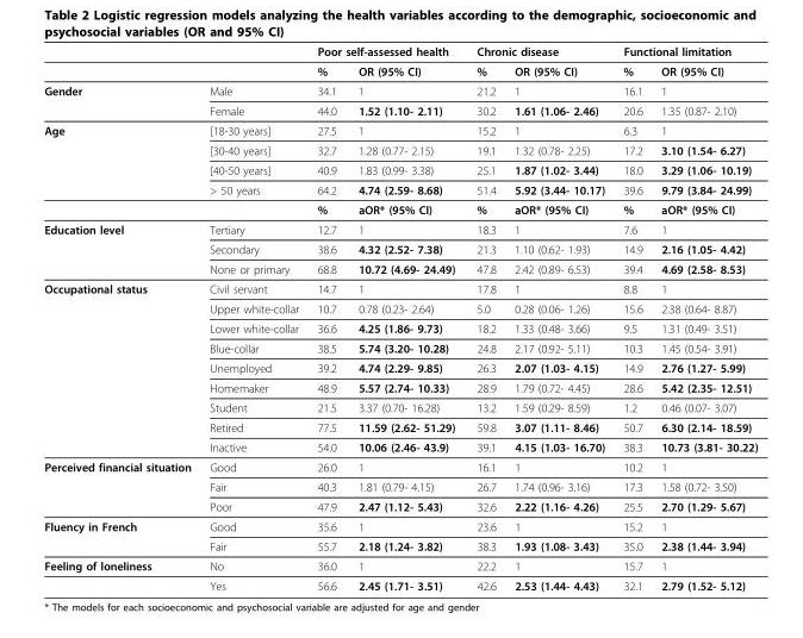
<table><thead><tr><td rowspan="2"></td><td rowspan="2"></td><td colspan="2">Poor self-assessed health</td><td colspan="2">Chronic disease</td><td colspan="2">Functional limitation</td></tr><tr><td>%</td><td>OR (95% CI)</td><td>%</td><td>OR (95% CI)</td><td>%</td><td>OR (95% CI)</td></tr></thead><tbody><tr><td rowspan="2">Gender</td><td>Male</td><td>34.1</td><td>1</td><td>21.2</td><td>1</td><td>16.1</td><td>1</td></tr><tr><td>Female</td><td>44.0</td><td>1.52 (1.10- 2.11)</td><td>30.2</td><td>1.61 (1.06- 2.46)</td><td>20.6</td><td>1.35 (0.87- 2.10)</td></tr><tr><td rowspan="5">Age</td><td>[18-30 years]</td><td>27.5</td><td>1</td><td>15.2</td><td>1</td><td>6.3</td><td>1</td></tr><tr><td>[30-40 years]</td><td>32.7</td><td>1.28 (0.77- 2.15)</td><td>19.1</td><td>1.32 (0.78- 2.25)</td><td>17.2</td><td>3.10 (1.54- 6.27)</td></tr><tr><td>[40-50 years]</td><td>40.9</td><td>1.83 (0.99- 3.38)</td><td>25.1</td><td>1.87 (1.02- 3.44)</td><td>18.0</td><td>3.29 (1.06- 10.19)</td></tr><tr><td>&gt; 50 years</td><td>64.2</td><td>4.74 (2.59- 8.68)</td><td>51.4</td><td>5.92 (3.44- 10.17)</td><td>39.6</td><td>9.79 (3.84- 24.99)</td></tr><tr><td></td><td>%</td><td>aOR* (95% CI)</td><td>%</td><td>aOR* (95% CI)</td><td>%</td><td>aOR* (95% CI)</td></tr><tr><td rowspan="3">Education level</td><td>Tertiary</td><td>12.7</td><td>1</td><td>18.3</td><td>1</td><td>7.6</td><td>1</td></tr><tr><td>Secondary</td><td>38.6</td><td>4.32 (2.52- 7.38)</td><td>21.3</td><td>1.10 (0.62- 1.93)</td><td>14.9</td><td>2.16 (1.05- 4.42)</td></tr><tr><td>None or primary</td><td>68.8</td><td>10.72 (4.69- 24.49)</td><td>47.8</td><td>2.42 (0.89- 6.53)</td><td>39.4</td><td>4.69 (2.58- 8.53)</td></tr><tr><td rowspan="9">Occupational status</td><td>Civil servant</td><td>14.7</td><td>1</td><td>17.8</td><td>1</td><td>8.8</td><td>1</td></tr><tr><td>Upper white-collar</td><td>10.7</td><td>0.78 (0.23- 2.64)</td><td>5.0</td><td>0.28 (0.06- 1.26)</td><td>15.6</td><td>2.38 (0.64- 8.87)</td></tr><tr><td>Lower white-collar</td><td>36.6</td><td>4.25 (1.86- 9.73)</td><td>18.2</td><td>1.33 (0.48- 3.66)</td><td>9.5</td><td>1.31 (0.49- 3.51)</td></tr><tr><td>Blue-collar</td><td>38.5</td><td>5.74 (3.20- 10.28)</td><td>24.8</td><td>2.17 (0.92- 5.11)</td><td>10.3</td><td>1.45 (0.54- 3.91)</td></tr><tr><td>Unemployed</td><td>39.2</td><td>4.74 (2.29- 9.85)</td><td>26.3</td><td>2.07 (1.03- 4.15)</td><td>14.9</td><td>2.76 (1.27- 5.99)</td></tr><tr><td>Homemaker</td><td>48.9</td><td>5.57 (2.74- 10.33)</td><td>28.9</td><td>1.79 (0.72- 4.45)</td><td>28.6</td><td>5.42 (2.35- 12.51)</td></tr><tr><td>Student</td><td>21.5</td><td>3.37 (0.70- 16.28)</td><td>13.2</td><td>1.59 (0.29- 8.59)</td><td>1.2</td><td>0.46 (0.07- 3.07)</td></tr><tr><td>Retired</td><td>77.5</td><td>11.59 (2.62- 51.29)</td><td>59.8</td><td>3.07 (1.11- 8.46)</td><td>50.7</td><td>6.30 (2.14- 18.59)</td></tr><tr><td>Inactive</td><td>54.0</td><td>10.06 (2.46- 43.9)</td><td>39.1</td><td>4.15 (1.03- 16.70)</td><td>38.3</td><td>10.73 (3.81- 30.22)</td></tr><tr><td rowspan="3">Perceived financial situation</td><td>Good</td><td>26.0</td><td>1</td><td>16.1</td><td>1</td><td>10.2</td><td>1</td></tr><tr><td>Fair</td><td>40.3</td><td>1.81 (0.79- 4.15)</td><td>26.7</td><td>1.74 (0.96- 3.16)</td><td>17.3</td><td>1.58 (0.72- 3.50)</td></tr><tr><td>Poor</td><td>47.9</td><td>2.47 (1.12- 5.43)</td><td>32.6</td><td>2.22 (1.16- 4.26)</td><td>25.5</td><td>2.70 (1.29- 5.67)</td></tr><tr><td rowspan="2">Fluency in French</td><td>Good</td><td>35.6</td><td>1</td><td>23.6</td><td>1</td><td>15.2</td><td>1</td></tr><tr><td>Fair</td><td>55.7</td><td>2.18 (1.24- 3.82)</td><td>38.3</td><td>1.93 (1.08- 3.43)</td><td>35.0</td><td>2.38 (1.44- 3.94)</td></tr><tr><td rowspan="2">Feeling of loneliness</td><td>No</td><td>36.0</td><td>1</td><td>22.2</td><td>1</td><td>15.7</td><td>1</td></tr><tr><td>Yes</td><td>56.6</td><td>2.45 (1.71- 3.51)</td><td>42.6</td><td>2.53 (1.44- 4.43)</td><td>32.1</td><td>2.79 (1.52- 5.12)</td></tr></tbody></table>